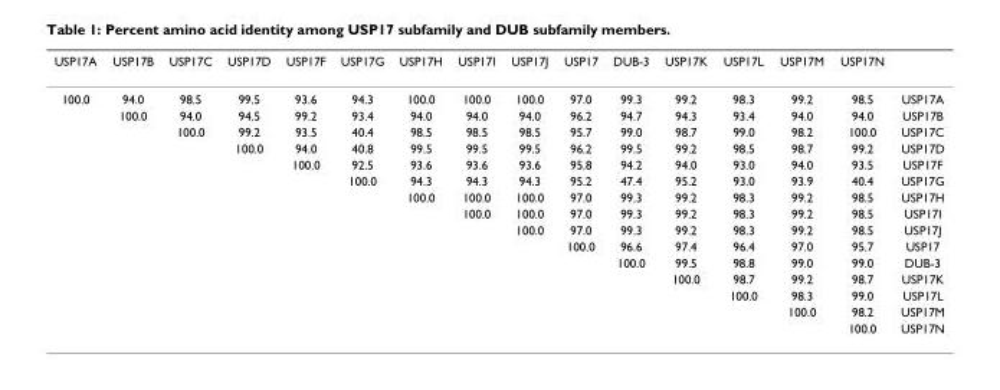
<table><thead><tr><td>USP17A</td><td>USP17B</td><td>USP17C</td><td>USP17D</td><td>USP17F</td><td>USP17G</td><td>USP17H</td><td>USP17I</td><td>USP17J</td><td>USP17</td><td>DUB-3</td><td>USP17K</td><td>USP17L</td><td>USP17M</td><td>USP17N</td><td></td></tr></thead><tbody><tr><td rowspan="15">100.0</td><td>94.0</td><td>98.5</td><td>99.5</td><td>93.6</td><td>94.3</td><td>100.0</td><td>100.0</td><td>100.0</td><td>97.0</td><td>99.3</td><td>99.2</td><td>98.3</td><td>99.2</td><td>98.5</td><td>USP17A</td></tr><tr><td>100.0</td><td>94.0</td><td>94.5</td><td>99.2</td><td>93.4</td><td>94.0</td><td>94.0</td><td>94.0</td><td>96.2</td><td>94.7</td><td>94.3</td><td>93.4</td><td>94.0</td><td>94.0</td><td>USP17B</td></tr><tr><td></td><td>100.0</td><td>99.2</td><td>93.5</td><td>40.4</td><td>98.5</td><td>98.5</td><td>98.5</td><td>95.7</td><td>99.0</td><td>98.7</td><td>99.0</td><td>98.2</td><td>100.0</td><td>USP17C</td></tr><tr><td></td><td></td><td>100.0</td><td>94.0</td><td>40.8</td><td>99.5</td><td>99.5</td><td>99.5</td><td>96.2</td><td>99.5</td><td>99.2</td><td>98.5</td><td>98.7</td><td>99.2</td><td>USP17D</td></tr><tr><td></td><td></td><td></td><td>100.0</td><td>92.5</td><td>93.6</td><td>93.6</td><td>93.6</td><td>95.8</td><td>94.2</td><td>94.0</td><td>93.0</td><td>94.0</td><td>93.5</td><td>USP17F</td></tr><tr><td></td><td></td><td></td><td></td><td>100.0</td><td>94.3</td><td>94.3</td><td>94.3</td><td>95.2</td><td>47.4</td><td>95.2</td><td>93.0</td><td>93.9</td><td>40.4</td><td>USP17G</td></tr><tr><td></td><td></td><td></td><td></td><td></td><td>100.0</td><td>100.0</td><td>100.0</td><td>97.0</td><td>99.3</td><td>99.2</td><td>98.3</td><td>99.2</td><td>98.5</td><td>USP17H</td></tr><tr><td></td><td></td><td></td><td></td><td></td><td></td><td>100.0</td><td>100.0</td><td>97.0</td><td>99.3</td><td>99.2</td><td>98.3</td><td>99.2</td><td>98.5</td><td>USP17I</td></tr><tr><td></td><td></td><td></td><td></td><td></td><td></td><td></td><td>100.0</td><td>97.0</td><td>99.3</td><td>99.2</td><td>98.3</td><td>99.2</td><td>98.5</td><td>USP17J</td></tr><tr><td></td><td></td><td></td><td></td><td></td><td></td><td></td><td></td><td>100.0</td><td>96.6</td><td>97.4</td><td>96.4</td><td>97.0</td><td>95.7</td><td>USP17</td></tr><tr><td></td><td></td><td></td><td></td><td></td><td></td><td></td><td></td><td></td><td>100.0</td><td>99.5</td><td>98.8</td><td>99.0</td><td>99.0</td><td>DUB-3</td></tr><tr><td></td><td></td><td></td><td></td><td></td><td></td><td></td><td></td><td></td><td></td><td>100.0</td><td>98.7</td><td>99.2</td><td>98.7</td><td>USP17K</td></tr><tr><td></td><td></td><td></td><td></td><td></td><td></td><td></td><td></td><td></td><td></td><td></td><td>100.0</td><td>98.3</td><td>99.0</td><td>USP17L</td></tr><tr><td></td><td></td><td></td><td></td><td></td><td></td><td></td><td></td><td></td><td></td><td></td><td></td><td>100.0</td><td>98.2</td><td>USP17M</td></tr><tr><td></td><td></td><td></td><td></td><td></td><td></td><td></td><td></td><td></td><td></td><td></td><td></td><td></td><td>100.0</td><td>USP17N</td></tr></tbody></table>